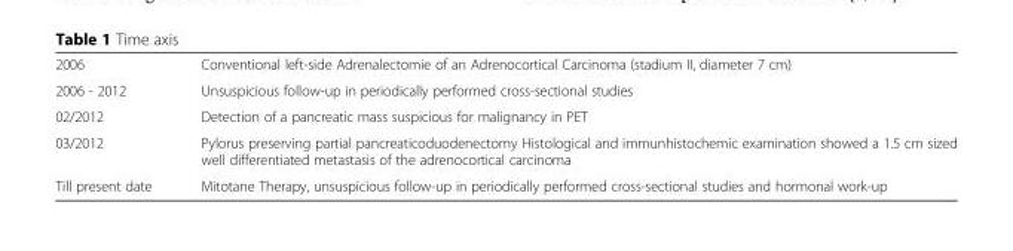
<table><tbody><tr><td>2006</td><td>Conventional left-side Adrenalectomie of an Adrenocortical Carcinoma (stadium II, diameter 7 cm)</td></tr><tr><td>2006 - 2012</td><td>Unsuspicious follow-up in periodically performed cross-sectional studies</td></tr><tr><td>02/2012</td><td>Detection of a pancreatic mass suspicious for malignancy in PET</td></tr><tr><td>03/2012</td><td>Pylorus preserving partial pancreaticoduodenectomy Histological and immunhistochemic examination showed a 1.5 cm sized well differentiated metastasis of the adrenocortical carcinoma</td></tr><tr><td>Till present date</td><td>Mitotane Therapy, unsuspicious follow-up in periodically performed cross-sectional studies and hormonal work-up</td></tr></tbody></table>